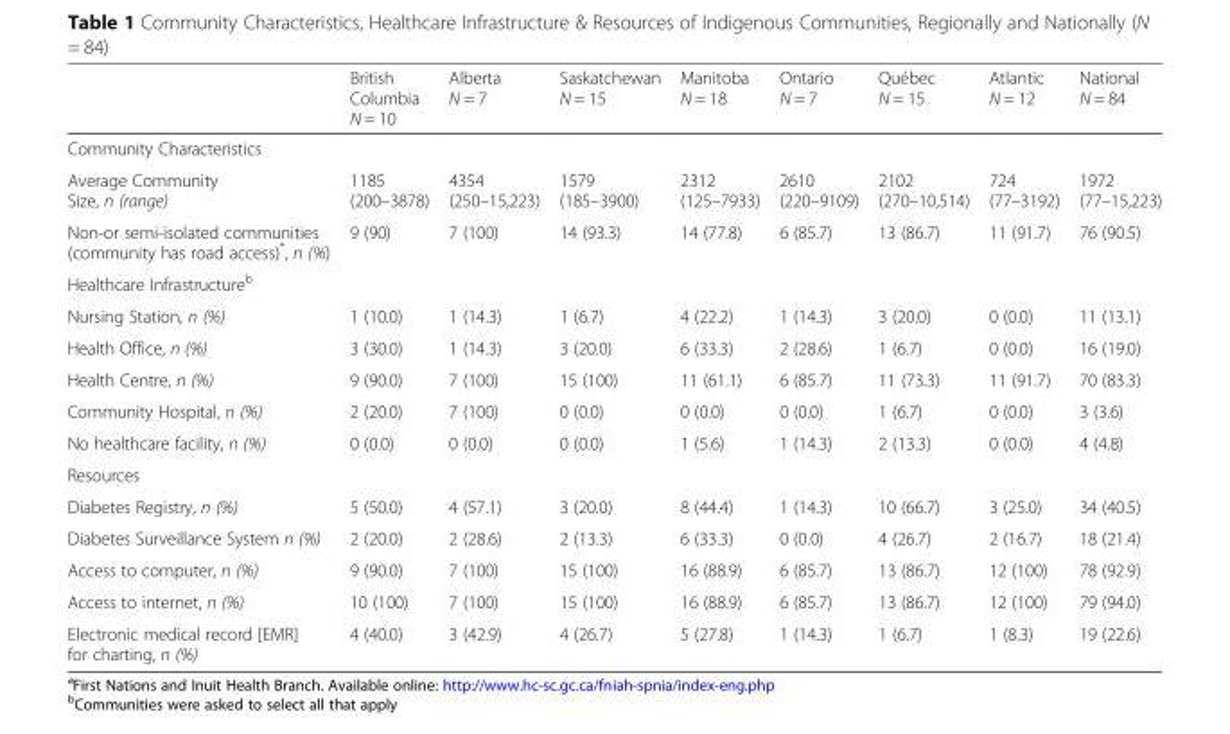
<table><thead><tr><td></td><td>British Columbia N = 10</td><td>Alberta N = 7</td><td>Saskatchewan N = 15</td><td>Manitoba N = 18</td><td>Ontario N = 7</td><td>Québec N = 15</td><td>Atlantic N = 12</td><td>National N = 84</td></tr></thead><tbody><tr><td colspan="9">Community Characteristics</td></tr><tr><td>Average Community Size, n (range)</td><td>1185 (200–3878)</td><td>4354 (250–15,223)</td><td>1579 (185–3900)</td><td>2312 (125–7933)</td><td>2610 (220–9109)</td><td>2102 (270–10,514)</td><td>724 (77–3192)</td><td>1972 (77–15,223)</td></tr><tr><td>Non-or semi-isolated communities (community has road access)*, n (%)</td><td>9 (90)</td><td>7 (100)</td><td>14 (93.3)</td><td>14 (77.8)</td><td>6 (85.7)</td><td>13 (86.7)</td><td>11 (91.7)</td><td>76 (90.5)</td></tr><tr><td colspan="9">Healthcare Infrastructure<sup>b</sup></td></tr><tr><td>Nursing Station, n (%)</td><td>1 (10.0)</td><td>1 (14.3)</td><td>1 (6.7)</td><td>4 (22.2)</td><td>1 (14.3)</td><td>3 (20.0)</td><td>0 (0.0)</td><td>11 (13.1)</td></tr><tr><td>Health Office, n (%)</td><td>3 (30.0)</td><td>1 (14.3)</td><td>3 (20.0)</td><td>6 (33.3)</td><td>2 (28.6)</td><td>1 (6.7)</td><td>0 (0.0)</td><td>16 (19.0)</td></tr><tr><td>Health Centre, n (%)</td><td>9 (90.0)</td><td>7 (100)</td><td>15 (100)</td><td>11 (61.1)</td><td>6 (85.7)</td><td>11 (73.3)</td><td>11 (91.7)</td><td>70 (83.3)</td></tr><tr><td>Community Hospital, n (%)</td><td>2 (20.0)</td><td>7 (100)</td><td>0 (0.0)</td><td>0 (0.0)</td><td>0 (0.0)</td><td>1 (6.7)</td><td>0 (0.0)</td><td>3 (3.6)</td></tr><tr><td>No healthcare facility, n (%)</td><td>0 (0.0)</td><td>0 (0.0)</td><td>0 (0.0)</td><td>1 (5.6)</td><td>1 (14.3)</td><td>2 (13.3)</td><td>0 (0.0)</td><td>4 (4.8)</td></tr><tr><td colspan="9">Resources</td></tr><tr><td>Diabetes Registry, n (%)</td><td>5 (50.0)</td><td>4 (57.1)</td><td>3 (20.0)</td><td>8 (44.4)</td><td>1 (14.3)</td><td>10 (66.7)</td><td>3 (25.0)</td><td>34 (40.5)</td></tr><tr><td>Diabetes Surveillance System n (%)</td><td>2 (20.0)</td><td>2 (28.6)</td><td>2 (13.3)</td><td>6 (33.3)</td><td>0 (0.0)</td><td>4 (26.7)</td><td>2 (16.7)</td><td>18 (21.4)</td></tr><tr><td>Access to computer, n (%)</td><td>9 (90.0)</td><td>7 (100)</td><td>15 (100)</td><td>16 (88.9)</td><td>6 (85.7)</td><td>13 (86.7)</td><td>12 (100)</td><td>78 (92.9)</td></tr><tr><td>Access to internet, n (%)</td><td>10 (100)</td><td>7 (100)</td><td>15 (100)</td><td>16 (88.9)</td><td>6 (85.7)</td><td>13 (86.7)</td><td>12 (100)</td><td>79 (94.0)</td></tr><tr><td>Electronic medical record [EMR] for charting, n (%)</td><td>4 (40.0)</td><td>3 (42.9)</td><td>4 (26.7)</td><td>5 (27.8)</td><td>1 (14.3)</td><td>1 (6.7)</td><td>1 (8.3)</td><td>19 (22.6)</td></tr></tbody></table>